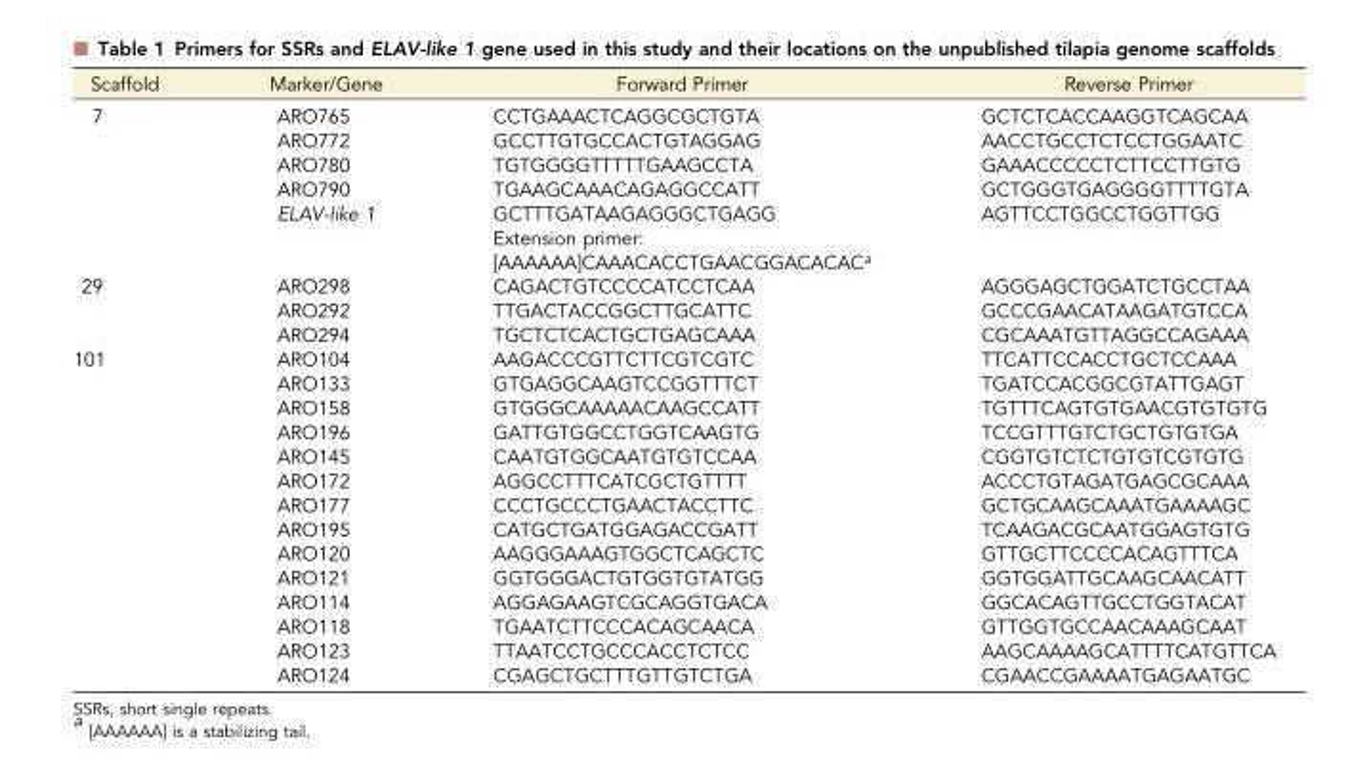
<table><thead><tr><td>Scaffold</td><td>Marker/Gene</td><td>Forward Primer</td><td>Reverse Primer</td></tr></thead><tbody><tr><td rowspan="6">7</td><td>ARO765</td><td>CCTGAAACTCAGGCGCTGTA</td><td>GCTCTCACCAAGGTCAGCAA</td></tr><tr><td>ARO772</td><td>GCCTTGTGCCACTGTAGGAG</td><td>AACCTGCCTCTCCTGGAATC</td></tr><tr><td>ARO780</td><td>TGTGGGGTTTTTGAAGCCTA</td><td>GAAACCCCCTCTTCCTTGTG</td></tr><tr><td>ARO790</td><td>TGAAGCAAACAGAGGCCATT</td><td>GCTGGGTGAGGGGTTTTGTA</td></tr><tr><td rowspan="2">ELAV-like 1</td><td>GCTTTGATAAGAGGGCTGAGG</td><td>AGTTCCTGGCCTGGTTGG</td></tr><tr><td>Extension primer: [AAAAAA]CAAACACCTGAACGGACACAC<sup>a</sup></td><td></td></tr><tr><td rowspan="3">29</td><td>ARO298</td><td>CAGACTGTCCCCATCCTCAA</td><td>AGGGAGCTGGATCTGCCTAA</td></tr><tr><td>ARO292</td><td>TTGACTACCGGCTTGCATTC</td><td>GCCCGAACATAAGATGTCCA</td></tr><tr><td>ARO294</td><td>TGCTCTCACTGCTGAGCAAA</td><td>CGCAAATGTTAGGCCAGAAA</td></tr><tr><td rowspan="14">101</td><td>ARO104</td><td>AAGACCCGTTCTTCGTCGTC</td><td>TTCATTCCACCTGCTCCAAA</td></tr><tr><td>ARO133</td><td>GTGAGGCAAGTCCGGTTTCT</td><td>TGATCCACGGCGTATTGAGT</td></tr><tr><td>ARO158</td><td>GTGGGCAAAAACAAGCCATT</td><td>TGTTTCAGTGTGAACGTGTGTG</td></tr><tr><td>ARO196</td><td>GATTGTGGCCTGGTCAAGTG</td><td>TCCGTTTGTCTGCTGTGTGA</td></tr><tr><td>ARO145</td><td>CAATGTGGCAATGTGTCCAA</td><td>CGGTGTCTCTGTGTCGTGTG</td></tr><tr><td>ARO172</td><td>AGGCCTTTCATCGCTGTTTT</td><td>ACCCTGTAGATGAGCGCAAA</td></tr><tr><td>ARO177</td><td>CCCTGCCCTGAACTACCTTC</td><td>GCTGCAAGCAAATGAAAAGC</td></tr><tr><td>ARO195</td><td>CATGCTGATGGAGACCGATT</td><td>TCAAGACGCAATGGAGTGTG</td></tr><tr><td>ARO120</td><td>AAGGGAAAGTGGCTCAGCTC</td><td>GTTGCTTCCCCACAGTTTCA</td></tr><tr><td>ARO121</td><td>GGTGGGACTGTGGTGTATGG</td><td>GGTGGATTGCAAGCAACATT</td></tr><tr><td>ARO114</td><td>AGGAGAAGTCGCAGGTGACA</td><td>GGCACAGTTGCCTGGTACAT</td></tr><tr><td>ARO118</td><td>TGAATCTTCCCACAGCAACA</td><td>GTTGGTGCCAACAAAGCAAT</td></tr><tr><td>ARO123</td><td>TTAATCCTGCCCACCTCTCC</td><td>AAGCAAAAGCATTTTCATGTTCA</td></tr><tr><td>ARO124</td><td>CGAGCTGCTTTGTTGTCTGA</td><td>CGAACCGAAAATGAGAATGC</td></tr></tbody></table>